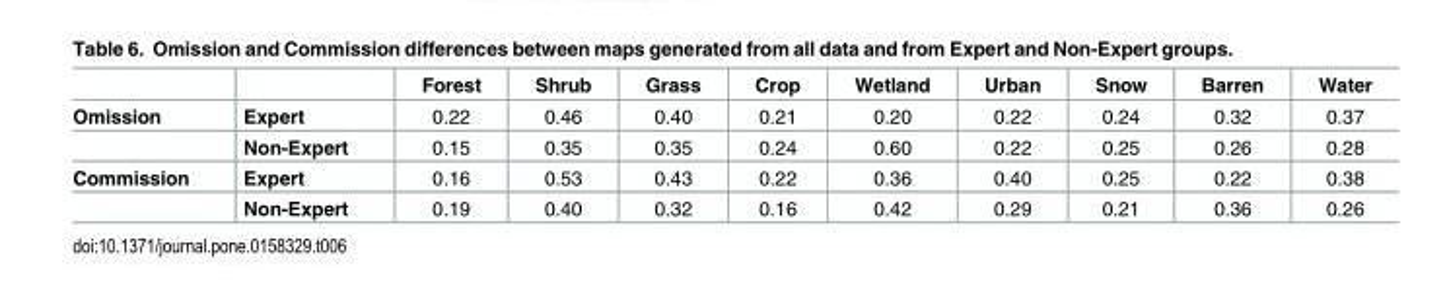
<table><thead><tr><td></td><td></td><td>Forest</td><td>Shrub</td><td>Grass</td><td>Crop</td><td>Wetland</td><td>Urban</td><td>Snow</td><td>Barren</td><td>Water</td></tr></thead><tbody><tr><td rowspan="2">Omission</td><td>Expert</td><td>0.22</td><td>0.46</td><td>0.40</td><td>0.21</td><td>0.20</td><td>0.22</td><td>0.24</td><td>0.32</td><td>0.37</td></tr><tr><td>Non-Expert</td><td>0.15</td><td>0.35</td><td>0.35</td><td>0.24</td><td>0.60</td><td>0.22</td><td>0.25</td><td>0.26</td><td>0.28</td></tr><tr><td rowspan="2">Commission</td><td>Expert</td><td>0.16</td><td>0.53</td><td>0.43</td><td>0.22</td><td>0.36</td><td>0.40</td><td>0.25</td><td>0.22</td><td>0.38</td></tr><tr><td>Non-Expert</td><td>0.19</td><td>0.40</td><td>0.32</td><td>0.16</td><td>0.42</td><td>0.29</td><td>0.21</td><td>0.36</td><td>0.26</td></tr></tbody></table>